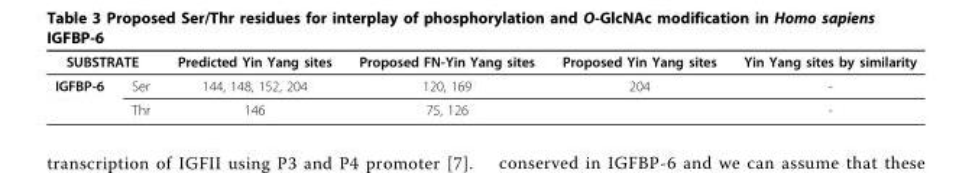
<table><thead><tr><td colspan="2">SUBSTRATE</td><td rowspan="2">Predicted Yin Yang sites 144, 148, 152, 204</td><td rowspan="2">Proposed FN-Yin Yang sites 120, 169</td><td rowspan="2">Proposed Yin Yang sites 204</td><td rowspan="2">Yin Yang sites by similarity -</td></tr><tr><td>IGFBP-6</td><td>Ser</td></tr></thead><tbody><tr><td></td><td>Thr</td><td>146</td><td>75, 126</td><td></td><td>-</td></tr></tbody></table>